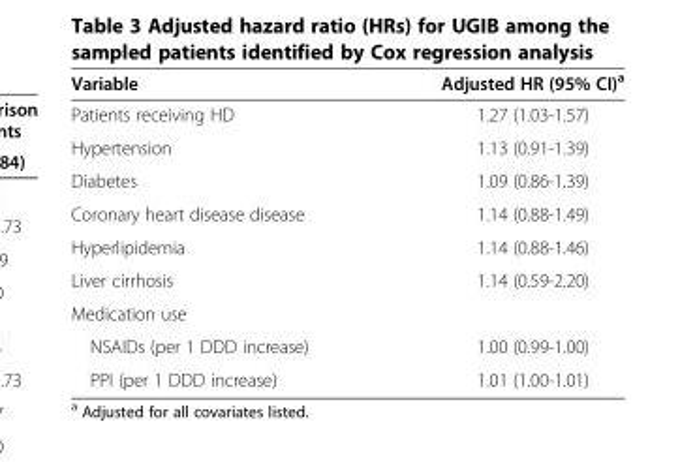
<table><thead><tr><td>Variable</td><td>Adjusted HR (95% CI)<sup>a</sup></td></tr></thead><tbody><tr><td>Patients receiving HD</td><td>1.27 (1.03-1.57)</td></tr><tr><td>Hypertension</td><td>1.13 (0.91-1.39)</td></tr><tr><td>Diabetes</td><td>1.09 (0.86-1.39)</td></tr><tr><td>Coronary heart disease disease</td><td>1.14 (0.88-1.49)</td></tr><tr><td>Hyperlipidemia</td><td>1.14 (0.88-1.46)</td></tr><tr><td>Liver cirrhosis</td><td>1.14 (0.59-2.20)</td></tr><tr><td colspan="2">Medication use</td></tr><tr><td>NSAIDs (per 1 DDD increase)</td><td>1.00 (0.99-1.00)</td></tr><tr><td>PPI (per 1 DDD increase)</td><td>1.01 (1.00-1.01)</td></tr></tbody></table>